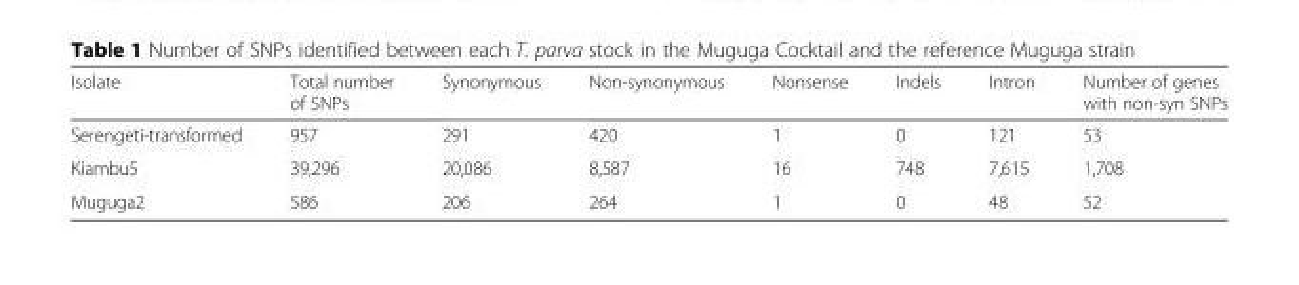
<table><thead><tr><td>Isolate</td><td>Total number of SNPs</td><td>Synonymous</td><td>Non-synonymous</td><td>Nonsense</td><td>Indels</td><td>Intron</td><td>Number of genes with non-syn SNPs</td></tr></thead><tbody><tr><td>Serengeti-transformed</td><td>957</td><td>291</td><td>420</td><td>1</td><td>0</td><td>121</td><td>53</td></tr><tr><td>Kiambu5</td><td>39,296</td><td>20,086</td><td>8,587</td><td>16</td><td>748</td><td>7,615</td><td>1,708</td></tr><tr><td>Muguga2</td><td>586</td><td>206</td><td>264</td><td>1</td><td>0</td><td>48</td><td>52</td></tr></tbody></table>